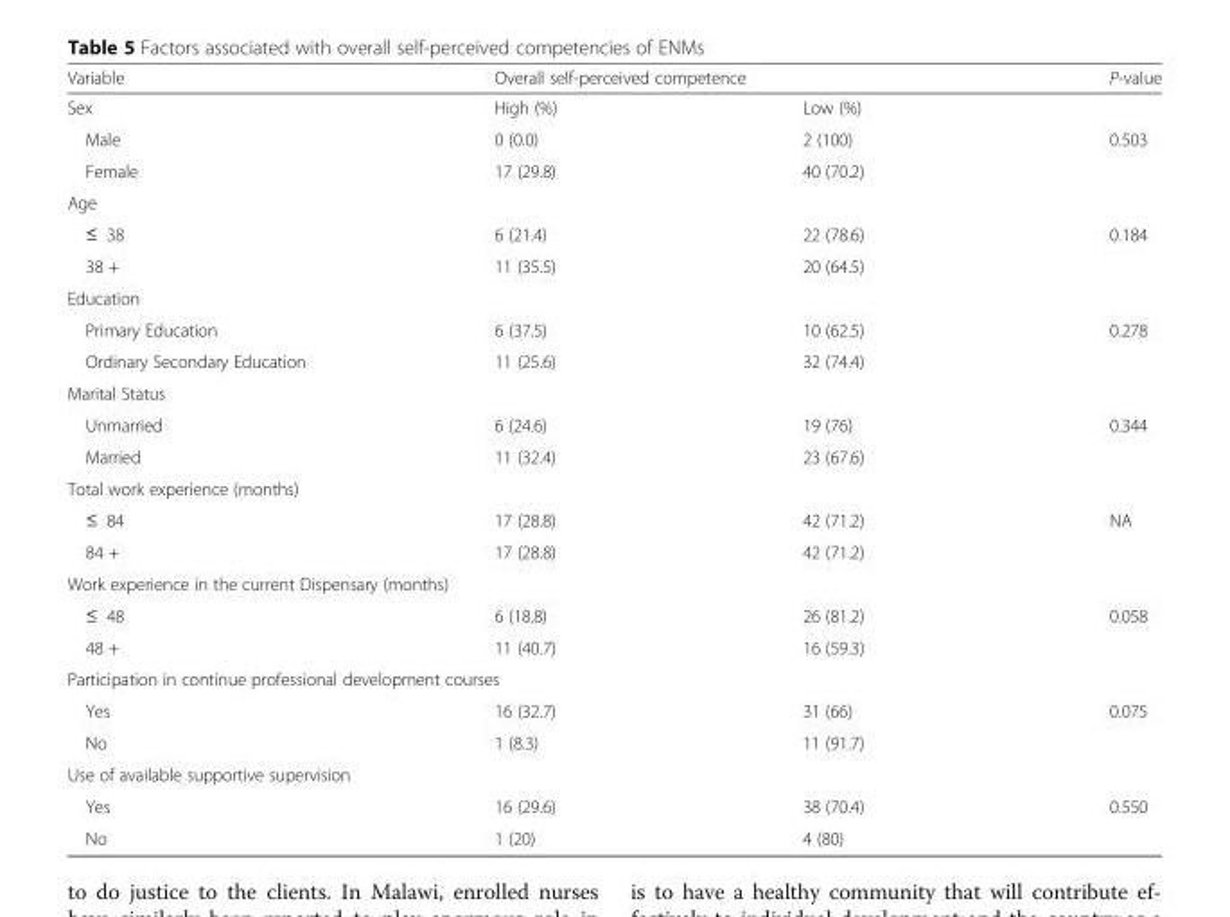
<table><thead><tr><td rowspan="2">Variable Sex</td><td colspan="2">Overall self-perceived competence</td><td rowspan="2">P-value</td></tr><tr><td>High (%)</td><td>Low (%)</td></tr></thead><tbody><tr><td>Male</td><td>0 (0.0)</td><td>2 (100)</td><td>0.503</td></tr><tr><td>Female</td><td>17 (29.8)</td><td>40 (70.2)</td><td></td></tr><tr><td colspan="4">Age</td></tr><tr><td>≤ 38</td><td>6 (21.4)</td><td>22 (78.6)</td><td>0.184</td></tr><tr><td>38 +</td><td>11 (35.5)</td><td>20 (64.5)</td><td></td></tr><tr><td colspan="4">Education</td></tr><tr><td>Primary Education</td><td>6 (37.5)</td><td>10 (62.5)</td><td>0.278</td></tr><tr><td>Ordinary Secondary Education</td><td>11 (25.6)</td><td>32 (74.4)</td><td></td></tr><tr><td colspan="4">Marital Status</td></tr><tr><td>Unmarried</td><td>6 (24.6)</td><td>19 (76)</td><td>0.344</td></tr><tr><td>Married</td><td>11 (32.4)</td><td>23 (67.6)</td><td></td></tr><tr><td colspan="4">Total work experience (months)</td></tr><tr><td>≤ 84</td><td>17 (28.8)</td><td>42 (71.2)</td><td>NA</td></tr><tr><td>84 +</td><td>17 (28.8)</td><td>42 (71.2)</td><td></td></tr><tr><td colspan="4">Work experience in the current Dispensary (months)</td></tr><tr><td>≤ 48</td><td>6 (18.8)</td><td>26 (81.2)</td><td>0.058</td></tr><tr><td>48 +</td><td>11 (40.7)</td><td>16 (59.3)</td><td></td></tr><tr><td colspan="4">Participation in continue professional development courses</td></tr><tr><td>Yes</td><td>16 (32.7)</td><td>31 (66)</td><td>0.075</td></tr><tr><td>No</td><td>1 (8.3)</td><td>11 (91.7)</td><td></td></tr><tr><td colspan="4">Use of available supportive supervision</td></tr><tr><td>Yes</td><td>16 (29.6)</td><td>38 (70.4)</td><td>0.550</td></tr><tr><td>No</td><td>1 (20)</td><td>4 (80)</td><td></td></tr></tbody></table>